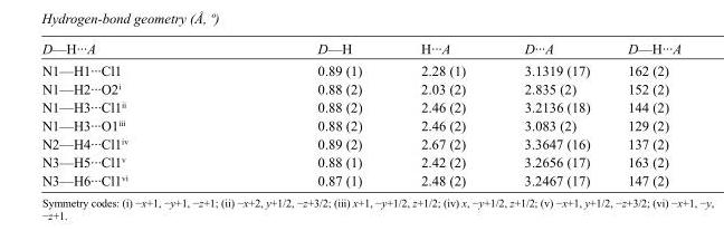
<table><tbody><tr><td>D—H···A</td><td>D—H</td><td>H···A</td><td>D···A</td><td>D—H···A</td></tr><tr><td>N1—H1···Cl1</td><td>0.89 (1)</td><td>2.28 (1)</td><td>3.1319 (17)</td><td>162 (2)</td></tr><tr><td>N1—H2···O2<sup>i</sup></td><td>0.88 (2)</td><td>2.03 (2)</td><td>2.835 (2)</td><td>152 (2)</td></tr><tr><td>N1—H3···Cl1<sup>ii</sup></td><td>0.88 (2)</td><td>2.46 (2)</td><td>3.2136 (18)</td><td>144 (2)</td></tr><tr><td>N1—H3···O1<sup>iii</sup></td><td>0.88 (2)</td><td>2.46 (2)</td><td>3.083 (2)</td><td>129 (2)</td></tr><tr><td>N2—H4···Cl1<sup>iv</sup></td><td>0.89 (2)</td><td>2.67 (2)</td><td>3.3647 (16)</td><td>137 (2)</td></tr><tr><td>N3—H5···Cl1<sup>v</sup></td><td>0.88 (1)</td><td>2.42 (2)</td><td>3.2656 (17)</td><td>163 (2)</td></tr><tr><td>N3—H6···Cl1<sup>vi</sup></td><td>0.87 (1)</td><td>2.48 (2)</td><td>3.2467 (17)</td><td>147 (2)</td></tr></tbody></table>